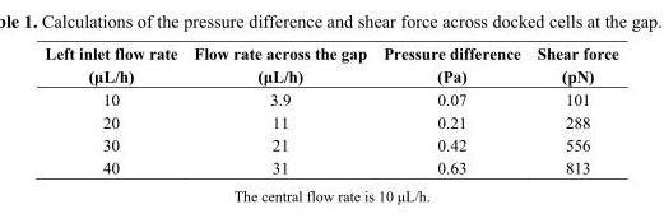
<table><thead><tr><td>Left inlet flow rate (μL/h)</td><td>Flow rate across the gap (μL/h)</td><td>Pressure difference (Pa)</td><td>Shear force (pN)</td></tr></thead><tbody><tr><td>10</td><td>3.9</td><td>0.07</td><td>101</td></tr><tr><td>20</td><td>11</td><td>0.21</td><td>288</td></tr><tr><td>30</td><td>21</td><td>0.42</td><td>556</td></tr><tr><td>40</td><td>31</td><td>0.63</td><td>813</td></tr></tbody></table>